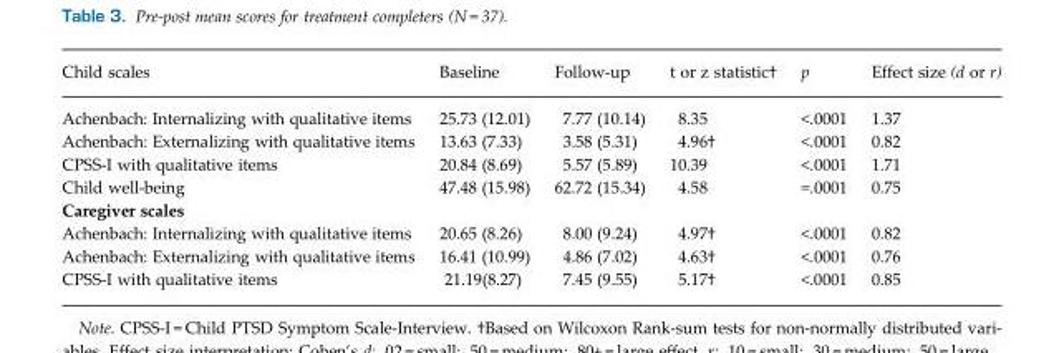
<table><thead><tr><td>Child scales</td><td>Baseline</td><td>Follow-up</td><td>t or z statistic†</td><td>p</td><td>Effect size (d or r)</td></tr></thead><tbody><tr><td>Achenbach: Internalizing with qualitative items</td><td>25.73 (12.01)</td><td>7.77 (10.14)</td><td>8.35</td><td>&lt;.0001</td><td>1.37</td></tr><tr><td>Achenbach: Externalizing with qualitative items</td><td>13.63 (7.33)</td><td>3.58 (5.31)</td><td>4.96†</td><td>&lt;.0001</td><td>0.82</td></tr><tr><td>CPSS-I with qualitative items</td><td>20.84 (8.69)</td><td>5.57 (5.89)</td><td>10.39</td><td>&lt;.0001</td><td>1.71</td></tr><tr><td>Child well-being</td><td>47.48 (15.98)</td><td>62.72 (15.34)</td><td>4.58</td><td>=.0001</td><td>0.75</td></tr><tr><td colspan="6">Caregiver scales</td></tr><tr><td>Achenbach: Internalizing with qualitative items</td><td>20.65 (8.26)</td><td>8.00 (9.24)</td><td>4.97†</td><td>&lt;.0001</td><td>0.82</td></tr><tr><td>Achenbach: Externalizing with qualitative items</td><td>16.41 (10.99)</td><td>4.86 (7.02)</td><td>4.63†</td><td>&lt;.0001</td><td>0.76</td></tr><tr><td>CPSS-I with qualitative items</td><td>21.19(8.27)</td><td>7.45 (9.55)</td><td>5.17†</td><td>&lt;.0001</td><td>0.85</td></tr></tbody></table>